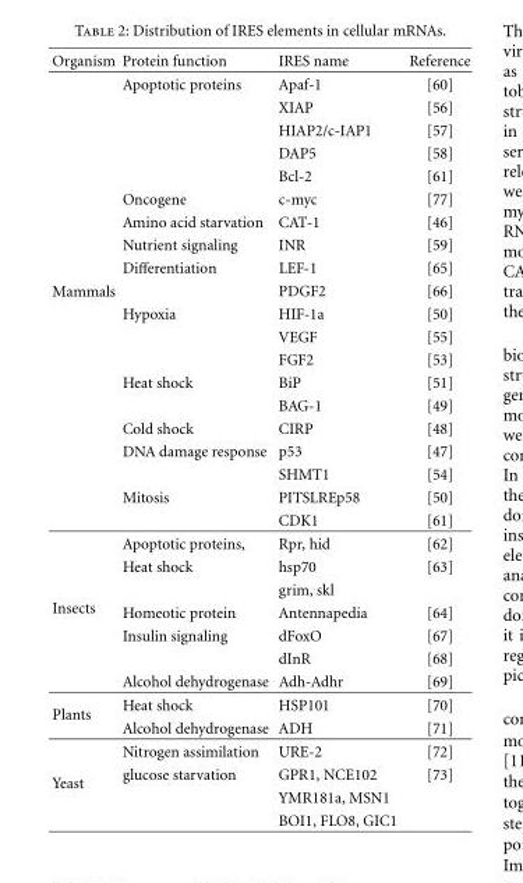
<table><thead><tr><td>Organism</td><td>Protein function</td><td>IRES name</td><td>Reference</td></tr></thead><tbody><tr><td rowspan="20">Mammals</td><td>Apoptotic proteins</td><td>Apaf-1</td><td>[60]</td></tr><tr><td></td><td>XIAP</td><td>[56]</td></tr><tr><td></td><td>HIAP2/c-IAP1</td><td>[57]</td></tr><tr><td></td><td>DAP5</td><td>[58]</td></tr><tr><td></td><td>Bcl-2</td><td>[61]</td></tr><tr><td>Oncogene</td><td>c-myc</td><td>[77]</td></tr><tr><td>Amino acid starvation</td><td>CAT-1</td><td>[46]</td></tr><tr><td>Nutrient signaling</td><td>INR</td><td>[59]</td></tr><tr><td>Differentiation</td><td>LEF-1</td><td>[65]</td></tr><tr><td></td><td>PDGF2</td><td>[66]</td></tr><tr><td>Hypoxia</td><td>HIF-1a</td><td>[50]</td></tr><tr><td></td><td>VEGF</td><td>[55]</td></tr><tr><td></td><td>FGF2</td><td>[53]</td></tr><tr><td>Heat shock</td><td>BiP</td><td>[51]</td></tr><tr><td></td><td>BAG-1</td><td>[49]</td></tr><tr><td>Cold shock</td><td>CIRP</td><td>[48]</td></tr><tr><td>DNA damage response</td><td>p53</td><td>[47]</td></tr><tr><td></td><td>SHMT1</td><td>[54]</td></tr><tr><td>Mitosis</td><td>PITSLREp58</td><td>[50]</td></tr><tr><td></td><td>CDK1</td><td>[61]</td></tr><tr><td rowspan="7">Insects</td><td>Apoptotic proteins,</td><td>Rpr, hid</td><td>[62]</td></tr><tr><td>Heat shock</td><td>hsp70</td><td>[63]</td></tr><tr><td></td><td>grim, skl</td><td></td></tr><tr><td>Homeotic protein</td><td>Antennapedia</td><td>[64]</td></tr><tr><td>Insulin signaling</td><td>dFoxO</td><td>[67]</td></tr><tr><td></td><td>dInR</td><td>[68]</td></tr><tr><td>Alcohol dehydrogenase</td><td>Adh-Adhr</td><td>[69]</td></tr><tr><td rowspan="2">Plants</td><td>Heat shock</td><td>HSP101</td><td>[70]</td></tr><tr><td>Alcohol dehydrogenase</td><td>ADH</td><td>[71]</td></tr><tr><td rowspan="4">Yeast</td><td>Nitrogen assimilation</td><td>URE-2</td><td>[72]</td></tr><tr><td>glucose starvation</td><td>GPR1, NCE102</td><td>[73]</td></tr><tr><td></td><td>YMR181a, MSN1</td><td></td></tr><tr><td></td><td>BOI1, FLO8, GIC1</td><td></td></tr></tbody></table>